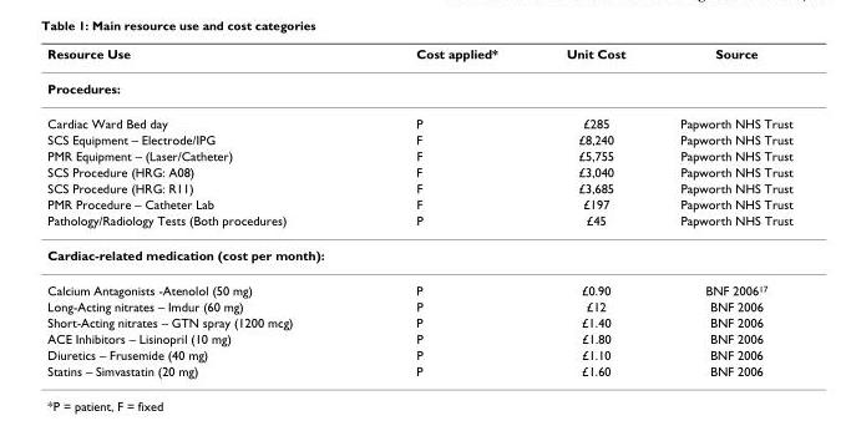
<table><thead><tr><td>Resource Use</td><td>Cost applied*</td><td>Unit Cost</td><td>Source</td></tr></thead><tbody><tr><td colspan="4">Procedures:</td></tr><tr><td>Cardiac Ward Bed day</td><td>P</td><td>£285</td><td>Papworth NHS Trust</td></tr><tr><td>SCS Equipment – Electrode/IPG</td><td>F</td><td>£8,240</td><td>Papworth NHS Trust</td></tr><tr><td>PMR Equipment – (Laser/Catheter)</td><td>F</td><td>£5,755</td><td>Papworth NHS Trust</td></tr><tr><td>SCS Procedure (HRG: A08)</td><td>F</td><td>£3,040</td><td>Papworth NHS Trust</td></tr><tr><td>SCS Procedure (HRG: R11)</td><td>F</td><td>£3,685</td><td>Papworth NHS Trust</td></tr><tr><td>PMR Procedure – Catheter Lab</td><td>F</td><td>£197</td><td>Papworth NHS Trust</td></tr><tr><td>Pathology/Radiology Tests (Both procedures)</td><td>P</td><td>£45</td><td>Papworth NHS Trust</td></tr><tr><td colspan="4">Cardiac-related medication (cost per month):</td></tr><tr><td>Calcium Antagonists -Atenolol (50 mg)</td><td>P</td><td>£0.90</td><td>BNF 2006<sup>17</sup></td></tr><tr><td>Long-Acting nitrates – Imdur (60 mg)</td><td>P</td><td>£12</td><td>BNF 2006</td></tr><tr><td>Short-Acting nitrates – GTN spray (1200 mcg)</td><td>P</td><td>£1.40</td><td>BNF 2006</td></tr><tr><td>ACE Inhibitors – Lisinopril (10 mg)</td><td>P</td><td>£1.80</td><td>BNF 2006</td></tr><tr><td>Diuretics – Frusemide (40 mg)</td><td>P</td><td>£1.10</td><td>BNF 2006</td></tr><tr><td>Statins – Simvastatin (20 mg)</td><td>P</td><td>£1.60</td><td>BNF 2006</td></tr></tbody></table>